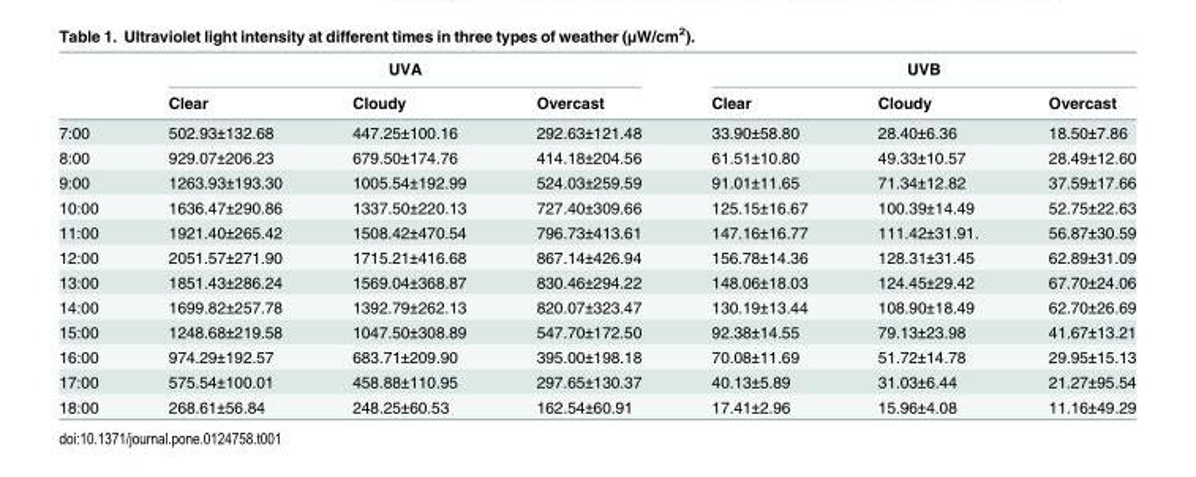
<table><thead><tr><td rowspan="2"></td><td colspan="3">UVA</td><td colspan="3">UVB</td></tr><tr><td>Clear</td><td>Cloudy</td><td>Overcast</td><td>Clear</td><td>Cloudy</td><td>Overcast</td></tr></thead><tbody><tr><td>7:00</td><td>502.93±132.68</td><td>447.25±100.16</td><td>292.63±121.48</td><td>33.90±58.80</td><td>28.40±6.36</td><td>18.50±7.86</td></tr><tr><td>8:00</td><td>929.07±206.23</td><td>679.50±174.76</td><td>414.18±204.56</td><td>61.51±10.80</td><td>49.33±10.57</td><td>28.49±12.60</td></tr><tr><td>9:00</td><td>1263.93±193.30</td><td>1005.54±192.99</td><td>524.03±259.59</td><td>91.01±11.65</td><td>71.34±12.82</td><td>37.59±17.66</td></tr><tr><td>10:00</td><td>1636.47±290.86</td><td>1337.50±220.13</td><td>727.40±309.66</td><td>125.15±16.67</td><td>100.39±14.49</td><td>52.75±22.63</td></tr><tr><td>11:00</td><td>1921.40±265.42</td><td>1508.42±470.54</td><td>796.73±413.61</td><td>147.16±16.77</td><td>111.42±31.91.</td><td>56.87±30.59</td></tr><tr><td>12:00</td><td>2051.57±271.90</td><td>1715.21±416.68</td><td>867.14±426.94</td><td>156.78±14.36</td><td>128.31±31.45</td><td>62.89±31.09</td></tr><tr><td>13:00</td><td>1851.43±286.24</td><td>1569.04±368.87</td><td>830.46±294.22</td><td>148.06±18.03</td><td>124.45±29.42</td><td>67.70±24.06</td></tr><tr><td>14:00</td><td>1699.82±257.78</td><td>1392.79±262.13</td><td>820.07±323.47</td><td>130.19±13.44</td><td>108.90±18.49</td><td>62.70±26.69</td></tr><tr><td>15:00</td><td>1248.68±219.58</td><td>1047.50±308.89</td><td>547.70±172.50</td><td>92.38±14.55</td><td>79.13±23.98</td><td>41.67±13.21</td></tr><tr><td>16:00</td><td>974.29±192.57</td><td>683.71±209.90</td><td>395.00±198.18</td><td>70.08±11.69</td><td>51.72±14.78</td><td>29.95±15.13</td></tr><tr><td>17:00</td><td>575.54±100.01</td><td>458.88±110.95</td><td>297.65±130.37</td><td>40.13±5.89</td><td>31.03±6.44</td><td>21.27±95.54</td></tr><tr><td>18:00</td><td>268.61±56.84</td><td>248.25±60.53</td><td>162.54±60.91</td><td>17.41±2.96</td><td>15.96±4.08</td><td>11.16±49.29</td></tr></tbody></table>